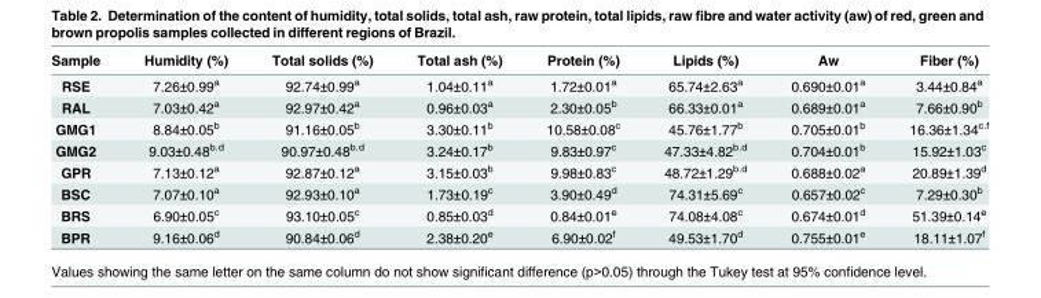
<table><thead><tr><td>Sample</td><td>Humidity (%)</td><td>Total solids (%)</td><td>Total ash (%)</td><td>Protein (%)</td><td>Lipids (%)</td><td>Aw</td><td>Fiber (%)</td></tr></thead><tbody><tr><td>RSE</td><td>7.26±0.99<sup>a</sup></td><td>92.74±0.99<sup>a</sup></td><td>1.04±0.11<sup>a</sup></td><td>1.72±0.01<sup>a</sup></td><td>65.74±2.63<sup>a</sup></td><td>0.690±0.01<sup>a</sup></td><td>3.44±0.84<sup>a</sup></td></tr><tr><td>RAL</td><td>7.03±0.42<sup>a</sup></td><td>92.97±0.42<sup>a</sup></td><td>0.96±0.03<sup>a</sup></td><td>2.30±0.05<sup>b</sup></td><td>66.33±0.01<sup>a</sup></td><td>0.689±0.01<sup>a</sup></td><td>7.66±0.90<sup>b</sup></td></tr><tr><td>GMG1</td><td>8.84±0.05<sup>b</sup></td><td>91.16±0.05<sup>b</sup></td><td>3.30±0.11<sup>b</sup></td><td>10.58±0.08<sup>c</sup></td><td>45.76±1.77<sup>b</sup></td><td>0.705±0.01<sup>b</sup></td><td>16.36±1.34<sup>c.f</sup></td></tr><tr><td>GMG2</td><td>9.03±0.48<sup>b.d</sup></td><td>90.97±0.48<sup>b.d</sup></td><td>3.24±0.17<sup>b</sup></td><td>9.83±0.97<sup>c</sup></td><td>47.33±4.82<sup>b.d</sup></td><td>0.704±0.01<sup>b</sup></td><td>15.92±1.03<sup>c</sup></td></tr><tr><td>GPR</td><td>7.13±0.12<sup>a</sup></td><td>92.87±0.12<sup>a</sup></td><td>3.15±0.03<sup>b</sup></td><td>9.98±0.83<sup>c</sup></td><td>48.72±1.29<sup>b.d</sup></td><td>0.688±0.02<sup>a</sup></td><td>20.89±1.39<sup>d</sup></td></tr><tr><td>BSC</td><td>7.07±0.10<sup>a</sup></td><td>92.93±0.10<sup>a</sup></td><td>1.73±0.19<sup>c</sup></td><td>3.90±0.49<sup>d</sup></td><td>74.31±5.69<sup>c</sup></td><td>0.657±0.02<sup>c</sup></td><td>7.29±0.30<sup>b</sup></td></tr><tr><td>BRS</td><td>6.90±0.05<sup>c</sup></td><td>93.10±0.05<sup>c</sup></td><td>0.85±0.03<sup>d</sup></td><td>0.84±0.01<sup>e</sup></td><td>74.08±4.08<sup>c</sup></td><td>0.674±0.01<sup>d</sup></td><td>51.39±0.14<sup>e</sup></td></tr><tr><td>BPR</td><td>9.16±0.06<sup>d</sup></td><td>90.84±0.06<sup>d</sup></td><td>2.38±0.20<sup>e</sup></td><td>6.90±0.02<sup>f</sup></td><td>49.53±1.70<sup>d</sup></td><td>0.755±0.01<sup>e</sup></td><td>18.11±1.07<sup>f</sup></td></tr></tbody></table>